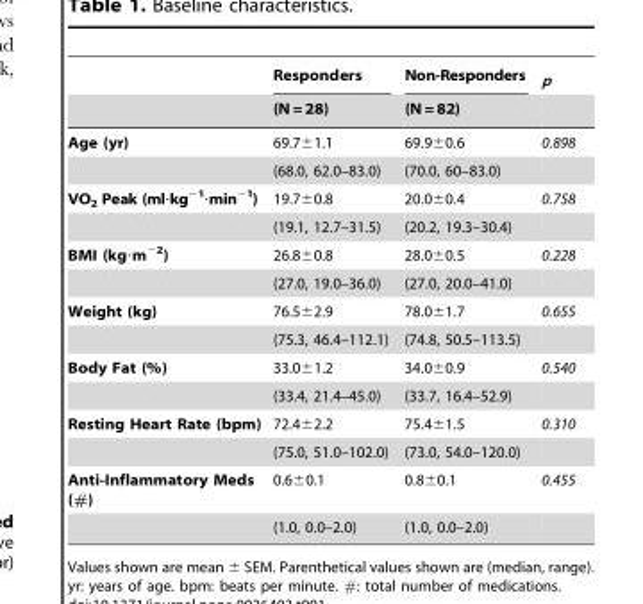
<table><thead><tr><td rowspan="2"></td><td rowspan="2">Responders (N = 28)</td><td rowspan="2">Non-Responders (N = 82)</td><td rowspan="2">p</td></tr><tr></tr></thead><tbody><tr><td rowspan="2">Age (yr)</td><td>69.7±1.1</td><td>69.9±0.6</td><td>0.898</td></tr><tr><td>(68.0, 62.0–83.0)</td><td>(70.0, 60–83.0)</td><td></td></tr><tr><td rowspan="2">VO<sub>2</sub> Peak (ml·kg<sup>−1</sup>·min<sup>−1</sup>)</td><td>19.7±0.8</td><td>20.0±0.4</td><td>0.758</td></tr><tr><td>(19.1, 12.7–31.5)</td><td>(20.2, 19.3–30.4)</td><td></td></tr><tr><td rowspan="2">BMI (kg·m<sup>−2</sup>)</td><td>26.8±0.8</td><td>28.0±0.5</td><td>0.228</td></tr><tr><td>(27.0, 19.0–36.0)</td><td>(27.0, 20.0–41.0)</td><td></td></tr><tr><td rowspan="2">Weight (kg)</td><td>76.5±2.9</td><td>78.0±1.7</td><td>0.655</td></tr><tr><td>(75.3, 46.4–112.1)</td><td>(74.8, 50.5–113.5)</td><td></td></tr><tr><td rowspan="2">Body Fat (%)</td><td>33.0±1.2</td><td>34.0±0.9</td><td>0.540</td></tr><tr><td>(33.4, 21.4–45.0)</td><td>(33.7, 16.4–52.9)</td><td></td></tr><tr><td rowspan="2">Resting Heart Rate (bpm)</td><td>72.4±2.2</td><td>75.4±1.5</td><td>0.310</td></tr><tr><td>(75.0, 51.0–102.0)</td><td>(73.0, 54.0–120.0)</td><td></td></tr><tr><td rowspan="2">Anti-Inflammatory Meds (#)</td><td>0.6±0.1</td><td>0.8±0.1</td><td>0.455</td></tr><tr><td>(1.0, 0.0–2.0)</td><td>(1.0, 0.0–2.0)</td><td></td></tr></tbody></table>